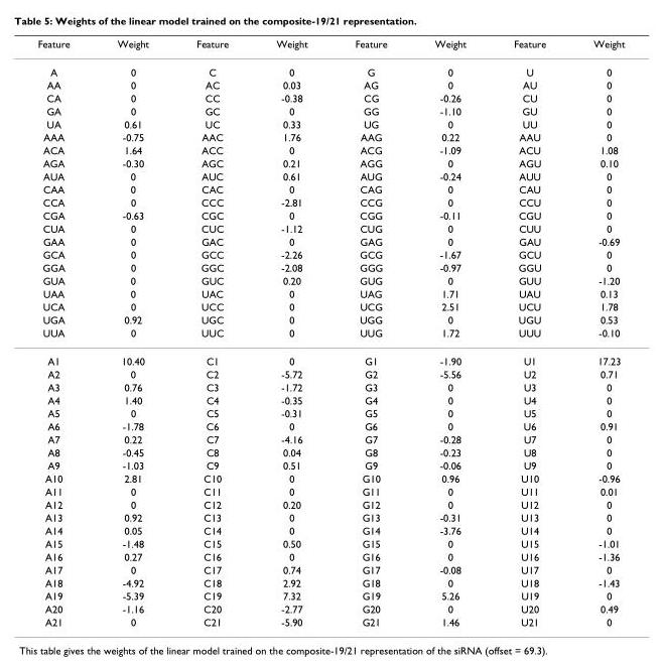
<table><thead><tr><td>Feature</td><td>Weight</td><td>Feature</td><td>Weight</td><td>Feature</td><td>Weight</td><td>Feature</td><td>Weight</td></tr></thead><tbody><tr><td>A</td><td>0</td><td>C</td><td>0</td><td>G</td><td>0</td><td>U</td><td>0</td></tr><tr><td>AA</td><td>0</td><td>AC</td><td>0.03</td><td>AG</td><td>0</td><td>AU</td><td>0</td></tr><tr><td>CA</td><td>0</td><td>CC</td><td>-0.38</td><td>CG</td><td>-0.26</td><td>CU</td><td>0</td></tr><tr><td>GA</td><td>0</td><td>GC</td><td>0</td><td>GG</td><td>-1.10</td><td>GU</td><td>0</td></tr><tr><td>UA</td><td>0.61</td><td>UC</td><td>0.33</td><td>UG</td><td>0</td><td>UU</td><td>0</td></tr><tr><td>AAA</td><td>-0.75</td><td>AAC</td><td>1.76</td><td>AAG</td><td>0.22</td><td>AAU</td><td>0</td></tr><tr><td>ACA</td><td>1.64</td><td>ACC</td><td>0</td><td>ACG</td><td>-1.09</td><td>ACU</td><td>1.08</td></tr><tr><td>AGA</td><td>-0.30</td><td>AGC</td><td>0.21</td><td>AGG</td><td>0</td><td>AGU</td><td>0.10</td></tr><tr><td>AUA</td><td>0</td><td>AUC</td><td>0.61</td><td>AUG</td><td>-0.24</td><td>AUU</td><td>0</td></tr><tr><td>CAA</td><td>0</td><td>CAC</td><td>0</td><td>CAG</td><td>0</td><td>CAU</td><td>0</td></tr><tr><td>CCA</td><td>0</td><td>CCC</td><td>-2.81</td><td>CCG</td><td>0</td><td>CCU</td><td>0</td></tr><tr><td>CGA</td><td>-0.63</td><td>CGC</td><td>0</td><td>CGG</td><td>-0.11</td><td>CGU</td><td>0</td></tr><tr><td>CUA</td><td>0</td><td>CUC</td><td>-1.12</td><td>CUG</td><td>0</td><td>CUU</td><td>0</td></tr><tr><td>GAA</td><td>0</td><td>GAC</td><td>0</td><td>GAG</td><td>0</td><td>GAU</td><td>-0.69</td></tr><tr><td>GCA</td><td>0</td><td>GCC</td><td>-2.26</td><td>GCG</td><td>-1.67</td><td>GCU</td><td>0</td></tr><tr><td>GGA</td><td>0</td><td>GGC</td><td>-2.08</td><td>GGG</td><td>-0.97</td><td>GGU</td><td>0</td></tr><tr><td>GUA</td><td>0</td><td>GUC</td><td>0.20</td><td>GUG</td><td>0</td><td>GUU</td><td>-1.20</td></tr><tr><td>UAA</td><td>0</td><td>UAC</td><td>0</td><td>UAG</td><td>1.71</td><td>UAU</td><td>0.13</td></tr><tr><td>UCA</td><td>0</td><td>UCC</td><td>0</td><td>UCG</td><td>2.51</td><td>UCU</td><td>1.78</td></tr><tr><td>UGA</td><td>0.92</td><td>UGC</td><td>0</td><td>UGG</td><td>0</td><td>UGU</td><td>0.53</td></tr><tr><td>UUA</td><td>0</td><td>UUC</td><td>0</td><td>UUG</td><td>1.72</td><td>UUU</td><td>-0.10</td></tr><tr><td>A1</td><td>10.40</td><td>C1</td><td>0</td><td>G1</td><td>-1.90</td><td>U1</td><td>17.23</td></tr><tr><td>A2</td><td>0</td><td>C2</td><td>-5.72</td><td>G2</td><td>-5.56</td><td>U2</td><td>0.71</td></tr><tr><td>A3</td><td>0.76</td><td>C3</td><td>-1.72</td><td>G3</td><td>0</td><td>U3</td><td>0</td></tr><tr><td>A4</td><td>1.40</td><td>C4</td><td>-0.35</td><td>G4</td><td>0</td><td>U4</td><td>0</td></tr><tr><td>A5</td><td>0</td><td>C5</td><td>-0.31</td><td>G5</td><td>0</td><td>U5</td><td>0</td></tr><tr><td>A6</td><td>-1.78</td><td>C6</td><td>0</td><td>G6</td><td>0</td><td>U6</td><td>0.91</td></tr><tr><td>A7</td><td>0.22</td><td>C7</td><td>-4.16</td><td>G7</td><td>-0.28</td><td>U7</td><td>0</td></tr><tr><td>A8</td><td>-0.45</td><td>C8</td><td>0.04</td><td>G8</td><td>-0.23</td><td>U8</td><td>0</td></tr><tr><td>A9</td><td>-1.03</td><td>C9</td><td>0.51</td><td>G9</td><td>-0.06</td><td>U9</td><td>0</td></tr><tr><td>A10</td><td>2.81</td><td>C10</td><td>0</td><td>G10</td><td>0.96</td><td>U10</td><td>-0.96</td></tr><tr><td>A11</td><td>0</td><td>C11</td><td>0</td><td>G11</td><td>0</td><td>U11</td><td>0.01</td></tr><tr><td>A12</td><td>0</td><td>C12</td><td>0.20</td><td>G12</td><td>0</td><td>U12</td><td>0</td></tr><tr><td>A13</td><td>0.92</td><td>C13</td><td>0</td><td>G13</td><td>-0.31</td><td>U13</td><td>0</td></tr><tr><td>A14</td><td>0.05</td><td>C14</td><td>0</td><td>G14</td><td>-3.76</td><td>U14</td><td>0</td></tr><tr><td>A15</td><td>-1.48</td><td>C15</td><td>0.50</td><td>G15</td><td>0</td><td>U15</td><td>-1.01</td></tr><tr><td>A16</td><td>0.27</td><td>C16</td><td>0</td><td>G16</td><td>0</td><td>U16</td><td>-1.36</td></tr><tr><td>A17</td><td>0</td><td>C17</td><td>0.74</td><td>G17</td><td>-0.08</td><td>U17</td><td>0</td></tr><tr><td>A18</td><td>-4.92</td><td>C18</td><td>2.92</td><td>G18</td><td>0</td><td>U18</td><td>-1.43</td></tr><tr><td>A19</td><td>-5.39</td><td>C19</td><td>7.32</td><td>G19</td><td>5.26</td><td>U19</td><td>0</td></tr><tr><td>A20</td><td>-1.16</td><td>C20</td><td>-2.77</td><td>G20</td><td>0</td><td>U20</td><td>0.49</td></tr><tr><td>A21</td><td>0</td><td>C21</td><td>-5.90</td><td>G21</td><td>1.46</td><td>U21</td><td>0</td></tr></tbody></table>